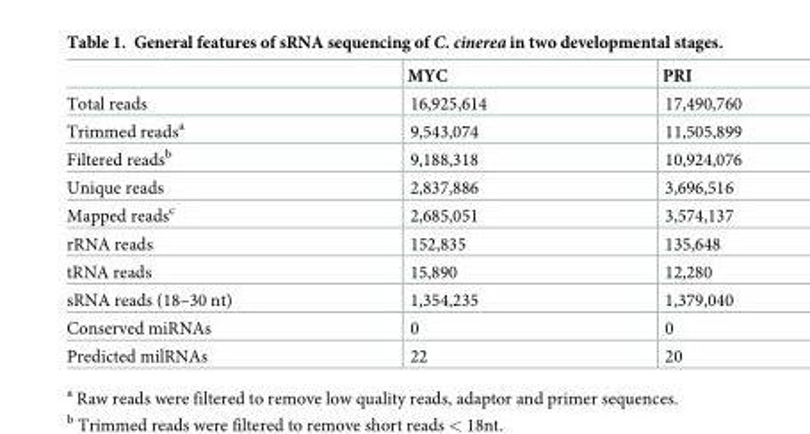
<table><thead><tr><td></td><td>MYC</td><td>PRI</td></tr></thead><tbody><tr><td>Total reads</td><td>16,925,614</td><td>17,490,760</td></tr><tr><td>Trimmed reads<sup>a</sup></td><td>9,543,074</td><td>11,505,899</td></tr><tr><td>Filtered reads<sup>b</sup></td><td>9,188,318</td><td>10,924,076</td></tr><tr><td>Unique reads</td><td>2,837,886</td><td>3,696,516</td></tr><tr><td>Mapped reads<sup>c</sup></td><td>2,685,051</td><td>3,574,137</td></tr><tr><td>rRNA reads</td><td>152,835</td><td>135,648</td></tr><tr><td>tRNA reads</td><td>15,890</td><td>12,280</td></tr><tr><td>sRNA reads (18–30 nt)</td><td>1,354,235</td><td>1,379,040</td></tr><tr><td>Conserved miRNAs</td><td>0</td><td>0</td></tr><tr><td>Predicted milRNAs</td><td>22</td><td>20</td></tr></tbody></table>